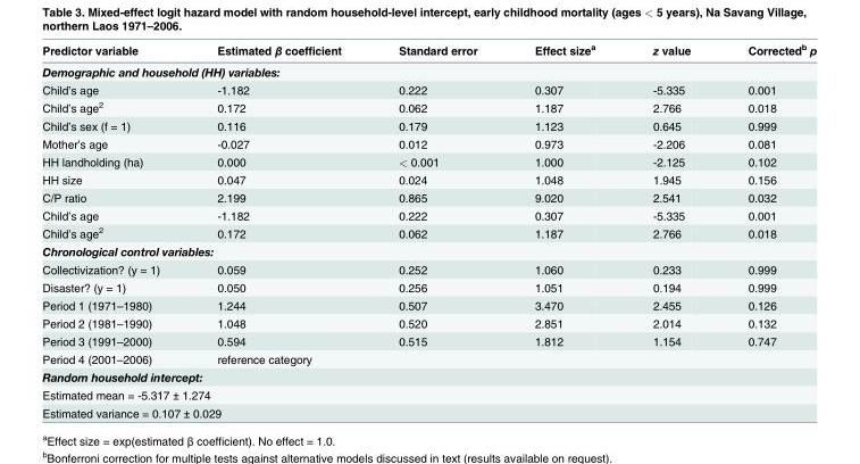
<table><thead><tr><td>Predictor variable</td><td>Estimated β coefficient</td><td>Standard error</td><td>Effect size<sup>a</sup></td><td>z value</td><td>Corrected<sup>b</sup> p</td></tr></thead><tbody><tr><td colspan="6">Demographic and household (HH) variables:</td></tr><tr><td>Child’s age</td><td>-1.182</td><td>0.222</td><td>0.307</td><td>-5.335</td><td>0.001</td></tr><tr><td>Child’s age<sup>2</sup></td><td>0.172</td><td>0.062</td><td>1.187</td><td>2.766</td><td>0.018</td></tr><tr><td>Child’s sex (f = 1)</td><td>0.116</td><td>0.179</td><td>1.123</td><td>0.645</td><td>0.999</td></tr><tr><td>Mother’s age</td><td>-0.027</td><td>0.012</td><td>0.973</td><td>-2.206</td><td>0.081</td></tr><tr><td>HH landholding (ha)</td><td>0.000</td><td>&lt; 0.001</td><td>1.000</td><td>-2.125</td><td>0.102</td></tr><tr><td>HH size</td><td>0.047</td><td>0.024</td><td>1.048</td><td>1.945</td><td>0.156</td></tr><tr><td>C/P ratio</td><td>2.199</td><td>0.865</td><td>9.020</td><td>2.541</td><td>0.032</td></tr><tr><td>Child’s age</td><td>-1.182</td><td>0.222</td><td>0.307</td><td>-5.335</td><td>0.001</td></tr><tr><td>Child’s age<sup>2</sup></td><td>0.172</td><td>0.062</td><td>1.187</td><td>2.766</td><td>0.018</td></tr><tr><td colspan="6">Chronological control variables:</td></tr><tr><td>Collectivization? (y = 1)</td><td>0.059</td><td>0.252</td><td>1.060</td><td>0.233</td><td>0.999</td></tr><tr><td>Disaster? (y = 1)</td><td>0.050</td><td>0.256</td><td>1.051</td><td>0.194</td><td>0.999</td></tr><tr><td>Period 1 (1971–1980)</td><td>1.244</td><td>0.507</td><td>3.470</td><td>2.455</td><td>0.126</td></tr><tr><td>Period 2 (1981–1990)</td><td>1.048</td><td>0.520</td><td>2.851</td><td>2.014</td><td>0.132</td></tr><tr><td>Period 3 (1991–2000)</td><td>0.594</td><td>0.515</td><td>1.812</td><td>1.154</td><td>0.747</td></tr><tr><td>Period 4 (2001–2006)</td><td colspan="5">reference category</td></tr><tr><td colspan="6">Random household intercept:</td></tr><tr><td colspan="6">Estimated mean = -5.317 ± 1.274</td></tr><tr><td colspan="6">Estimated variance = 0.107 ± 0.029</td></tr></tbody></table>